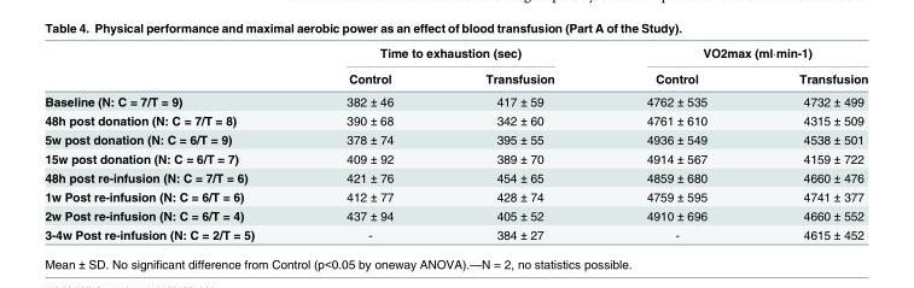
<table><thead><tr><td rowspan="2"></td><td colspan="2">Time to exhaustion (sec)</td><td colspan="2">VO2max (ml·min-1)</td></tr><tr><td>Control</td><td>Transfusion</td><td>Control</td><td>Transfusion</td></tr></thead><tbody><tr><td>Baseline (N: C = 7/T = 9)</td><td>382 ± 46</td><td>417 ± 59</td><td>4762 ± 535</td><td>4732 ± 499</td></tr><tr><td>48h post donation (N: C = 7/T = 8)</td><td>390 ± 68</td><td>342 ± 60</td><td>4761 ± 610</td><td>4315 ± 509</td></tr><tr><td>5w post donation (N: C = 6/T = 9)</td><td>378 ± 74</td><td>395 ± 55</td><td>4936 ± 549</td><td>4538 ± 501</td></tr><tr><td>15w post donation (N: C = 6/T = 7)</td><td>409 ± 92</td><td>389 ± 70</td><td>4914 ± 567</td><td>4159 ± 722</td></tr><tr><td>48h post re-infusion (N: C = 7/T = 6)</td><td>421 ± 76</td><td>454 ± 65</td><td>4859 ± 680</td><td>4660 ± 476</td></tr><tr><td>1w Post re-infusion (N: C = 6/T = 6)</td><td>412 ± 77</td><td>428 ± 74</td><td>4759 ± 595</td><td>4741 ± 377</td></tr><tr><td>2w Post re-infusion (N: C = 6/T = 4)</td><td>437 ± 94</td><td>405 ± 52</td><td>4910 ± 696</td><td>4660 ± 552</td></tr><tr><td>3-4w Post re-infusion (N: C = 2/T = 5)</td><td>-</td><td>384 ± 27</td><td>-</td><td>4615 ± 452</td></tr></tbody></table>